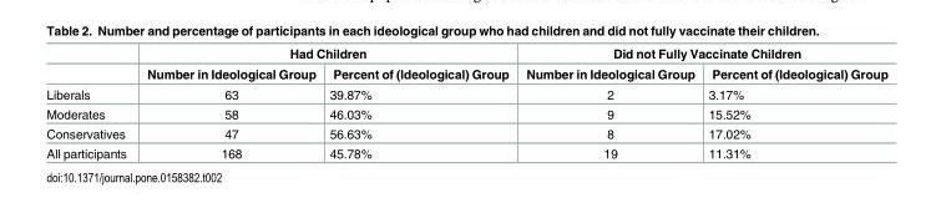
<table><thead><tr><td rowspan="2"></td><td colspan="2">Had Children</td><td colspan="2">Did not Fully Vaccinate Children</td></tr><tr><td>Number in Ideological Group</td><td>Percent of (Ideological) Group</td><td>Number in Ideological Group</td><td>Percent of (Ideological) Group</td></tr></thead><tbody><tr><td>Liberals</td><td>63</td><td>39.87%</td><td>2</td><td>3.17%</td></tr><tr><td>Moderates</td><td>58</td><td>46.03%</td><td>9</td><td>15.52%</td></tr><tr><td>Conservatives</td><td>47</td><td>56.63%</td><td>8</td><td>17.02%</td></tr><tr><td>All participants</td><td>168</td><td>45.78%</td><td>19</td><td>11.31%</td></tr></tbody></table>